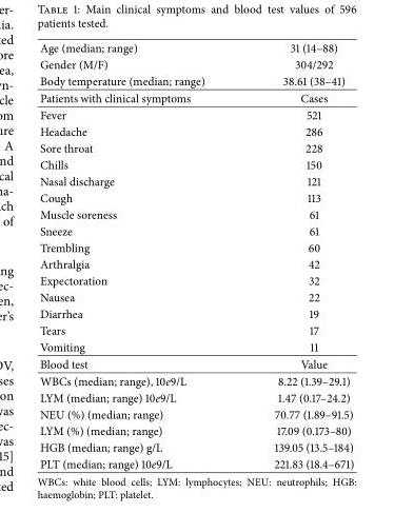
<table><tbody><tr><td>Age (median; range)</td><td>31 (14–88)</td></tr><tr><td>Gender (M/F)</td><td>304/292</td></tr><tr><td>Body temperature (median; range)</td><td>38.61 (38–41)</td></tr><tr><td>Patients with clinical symptoms</td><td>Cases</td></tr><tr><td>Fever</td><td>521</td></tr><tr><td>Headache</td><td>286</td></tr><tr><td>Sore throat</td><td>228</td></tr><tr><td>Chills</td><td>150</td></tr><tr><td>Nasal discharge</td><td>121</td></tr><tr><td>Cough</td><td>113</td></tr><tr><td>Muscle soreness</td><td>61</td></tr><tr><td>Sneeze</td><td>61</td></tr><tr><td>Trembling</td><td>60</td></tr><tr><td>Arthralgia</td><td>42</td></tr><tr><td>Expectoration</td><td>32</td></tr><tr><td>Nausea</td><td>22</td></tr><tr><td>Diarrhea</td><td>19</td></tr><tr><td>Tears</td><td>17</td></tr><tr><td>Vomiting</td><td>11</td></tr><tr><td>Blood test</td><td>Value</td></tr><tr><td>WBCs (median; range), 10e9/L</td><td>8.22 (1.39–29.1)</td></tr><tr><td>LYM (median; range) 10e9/L</td><td>1.47 (0.17–24.2)</td></tr><tr><td>NEU (%) (median; range)</td><td>70.77 (1.89–91.5)</td></tr><tr><td>LYM (%) (median; range)</td><td>17.09 (0.173–80)</td></tr><tr><td>HGB (median; range) g/L</td><td>139.05 (13.5–184)</td></tr><tr><td>PLT (median; range) 10e9/L</td><td>221.83 (18.4–671)</td></tr></tbody></table>